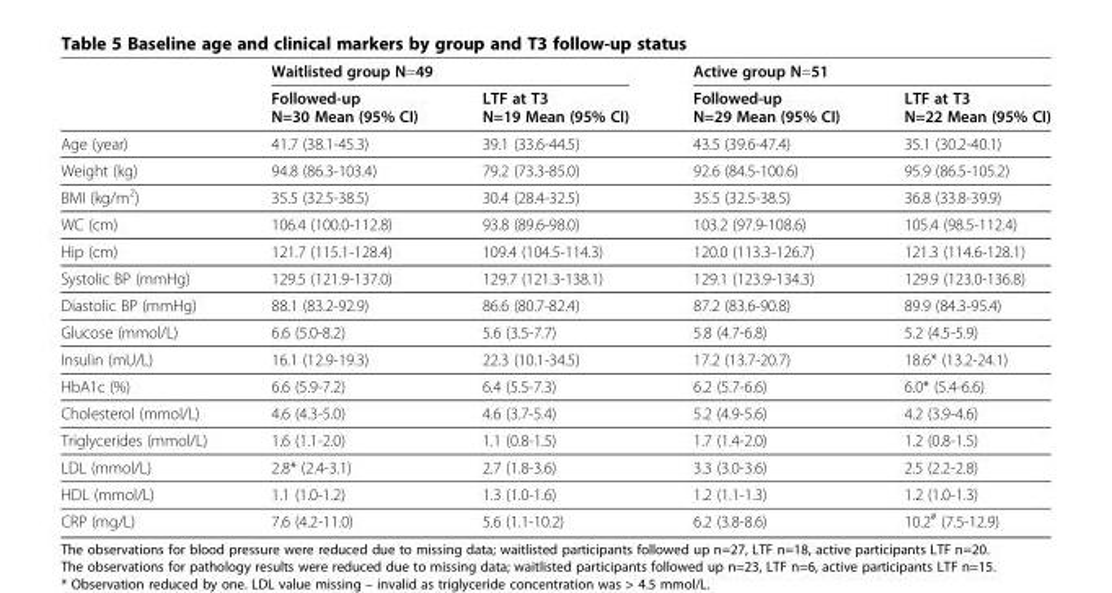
<table><thead><tr><td rowspan="2"></td><td colspan="2">Waitlisted group N=49</td><td colspan="2">Active group N=51</td></tr><tr><td>Followed-up N=30 Mean (95% CI)</td><td>LTF at T3 N=19 Mean (95% CI)</td><td>Followed-up N=29 Mean (95% CI)</td><td>LTF at T3 N=22 Mean (95% CI)</td></tr></thead><tbody><tr><td>Age (year)</td><td>41.7 (38.1-45.3)</td><td>39.1 (33.6-44.5)</td><td>43.5 (39.6-47.4)</td><td>35.1 (30.2-40.1)</td></tr><tr><td>Weight (kg)</td><td>94.8 (86.3-103.4)</td><td>79.2 (73.3-85.0)</td><td>92.6 (84.5-100.6)</td><td>95.9 (86.5-105.2)</td></tr><tr><td>BMI (kg/m<sup>2</sup>)</td><td>35.5 (32.5-38.5)</td><td>30.4 (28.4-32.5)</td><td>35.5 (32.5-38.5)</td><td>36.8 (33.8-39.9)</td></tr><tr><td>WC (cm)</td><td>106.4 (100.0-112.8)</td><td>93.8 (89.6-98.0)</td><td>103.2 (97.9-108.6)</td><td>105.4 (98.5-112.4)</td></tr><tr><td>Hip (cm)</td><td>121.7 (115.1-128.4)</td><td>109.4 (104.5-114.3)</td><td>120.0 (113.3-126.7)</td><td>121.3 (114.6-128.1)</td></tr><tr><td>Systolic BP (mmHg)</td><td>129.5 (121.9-137.0)</td><td>129.7 (121.3-138.1)</td><td>129.1 (123.9-134.3)</td><td>129.9 (123.0-136.8)</td></tr><tr><td>Diastolic BP (mmHg)</td><td>88.1 (83.2-92.9)</td><td>86.6 (80.7-82.4)</td><td>87.2 (83.6-90.8)</td><td>89.9 (84.3-95.4)</td></tr><tr><td>Glucose (mmol/L)</td><td>6.6 (5.0-8.2)</td><td>5.6 (3.5-7.7)</td><td>5.8 (4.7-6.8)</td><td>5.2 (4.5-5.9)</td></tr><tr><td>Insulin (mU/L)</td><td>16.1 (12.9-19.3)</td><td>22.3 (10.1-34.5)</td><td>17.2 (13.7-20.7)</td><td>18.6* (13.2-24.1)</td></tr><tr><td>HbA1c (%)</td><td>6.6 (5.9-7.2)</td><td>6.4 (5.5-7.3)</td><td>6.2 (5.7-6.6)</td><td>6.0* (5.4-6.6)</td></tr><tr><td>Cholesterol (mmol/L)</td><td>4.6 (4.3-5.0)</td><td>4.6 (3.7-5.4)</td><td>5.2 (4.9-5.6)</td><td>4.2 (3.9-4.6)</td></tr><tr><td>Triglycerides (mmol/L)</td><td>1.6 (1.1-2.0)</td><td>1.1 (0.8-1.5)</td><td>1.7 (1.4-2.0)</td><td>1.2 (0.8-1.5)</td></tr><tr><td>LDL (mmol/L)</td><td>2.8* (2.4-3.1)</td><td>2.7 (1.8-3.6)</td><td>3.3 (3.0-3.6)</td><td>2.5 (2.2-2.8)</td></tr><tr><td>HDL (mmol/L)</td><td>1.1 (1.0-1.2)</td><td>1.3 (1.0-1.6)</td><td>1.2 (1.1-1.3)</td><td>1.2 (1.0-1.3)</td></tr><tr><td>CRP (mg/L)</td><td>7.6 (4.2-11.0)</td><td>5.6 (1.1-10.2)</td><td>6.2 (3.8-8.6)</td><td>10.2<sup>#</sup> (7.5-12.9)</td></tr></tbody></table>